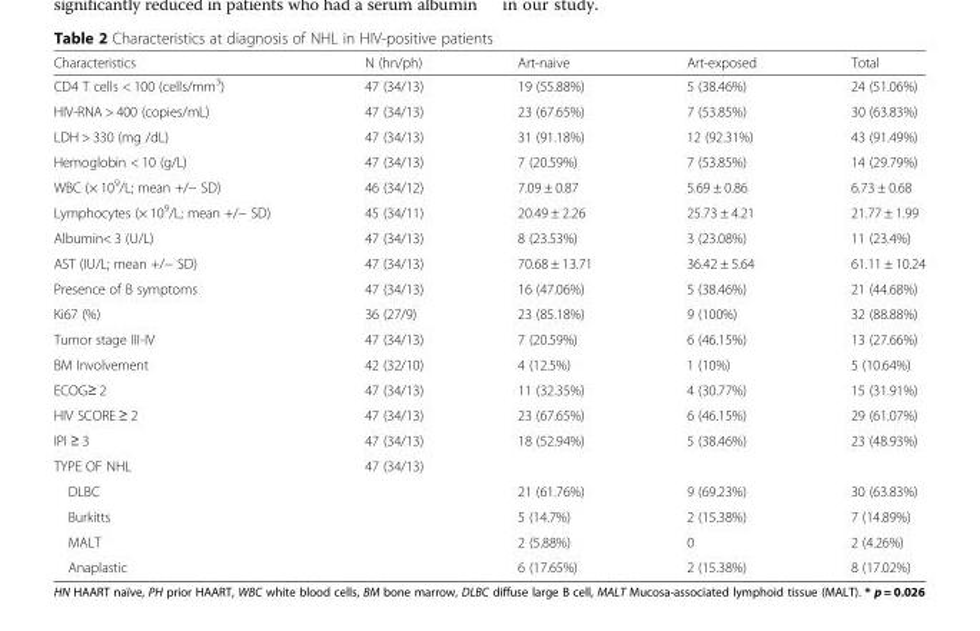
<table><thead><tr><td>Characteristics</td><td>N (hn/ph)</td><td>Art-naive</td><td>Art-exposed</td><td>Total</td></tr></thead><tbody><tr><td>CD4 T cells &lt; 100 (cells/mm<sup>3</sup>)</td><td>47 (34/13)</td><td>19 (55.88%)</td><td>5 (38.46%)</td><td>24 (51.06%)</td></tr><tr><td>HIV-RNA &gt; 400 (copies/mL)</td><td>47 (34/13)</td><td>23 (67.65%)</td><td>7 (53.85%)</td><td>30 (63.83%)</td></tr><tr><td>LDH &gt; 330 (mg /dL)</td><td>47 (34/13)</td><td>31 (91.18%)</td><td>12 (92.31%)</td><td>43 (91.49%)</td></tr><tr><td>Hemoglobin &lt; 10 (g/L)</td><td>47 (34/13)</td><td>7 (20.59%)</td><td>7 (53.85%)</td><td>14 (29.79%)</td></tr><tr><td>WBC (× 10<sup>9</sup>/L; mean +/− SD)</td><td>46 (34/12)</td><td>7.09 ± 0.87</td><td>5.69 ± 0.86</td><td>6.73 ± 0.68</td></tr><tr><td>Lymphocytes (× 10<sup>9</sup>/L; mean +/− SD)</td><td>45 (34/11)</td><td>20.49 ± 2.26</td><td>25.73 ± 4.21</td><td>21.77 ± 1.99</td></tr><tr><td>Albumin&lt; 3 (U/L)</td><td>47 (34/13)</td><td>8 (23.53%)</td><td>3 (23.08%)</td><td>11 (23.4%)</td></tr><tr><td>AST (IU/L; mean +/− SD)</td><td>47 (34/13)</td><td>70.68 ± 13.71</td><td>36.42 ± 5.64</td><td>61.11 ± 10.24</td></tr><tr><td>Presence of B symptoms</td><td>47 (34/13)</td><td>16 (47.06%)</td><td>5 (38.46%)</td><td>21 (44.68%)</td></tr><tr><td>Ki67 (%)</td><td>36 (27/9)</td><td>23 (85.18%)</td><td>9 (100%)</td><td>32 (88.88%)</td></tr><tr><td>Tumor stage III-IV</td><td>47 (34/13)</td><td>7 (20.59%)</td><td>6 (46.15%)</td><td>13 (27.66%)</td></tr><tr><td>BM Involvement</td><td>42 (32/10)</td><td>4 (12.5%)</td><td>1 (10%)</td><td>5 (10.64%)</td></tr><tr><td>ECOG≥ 2</td><td>47 (34/13)</td><td>11 (32.35%)</td><td>4 (30.77%)</td><td>15 (31.91%)</td></tr><tr><td>HIV SCORE ≥ 2</td><td>47 (34/13)</td><td>23 (67.65%)</td><td>6 (46.15%)</td><td>29 (61.07%)</td></tr><tr><td>IPI ≥ 3</td><td>47 (34/13)</td><td>18 (52.94%)</td><td>5 (38.46%)</td><td>23 (48.93%)</td></tr><tr><td>TYPE OF NHL</td><td>47 (34/13)</td><td></td><td></td><td></td></tr><tr><td>DLBC</td><td></td><td>21 (61.76%)</td><td>9 (69.23%)</td><td>30 (63.83%)</td></tr><tr><td>Burkitts</td><td></td><td>5 (14.7%)</td><td>2 (15.38%)</td><td>7 (14.89%)</td></tr><tr><td>MALT</td><td></td><td>2 (5.88%)</td><td>0</td><td>2 (4.26%)</td></tr><tr><td>Anaplastic</td><td></td><td>6 (17.65%)</td><td>2 (15.38%)</td><td>8 (17.02%)</td></tr></tbody></table>